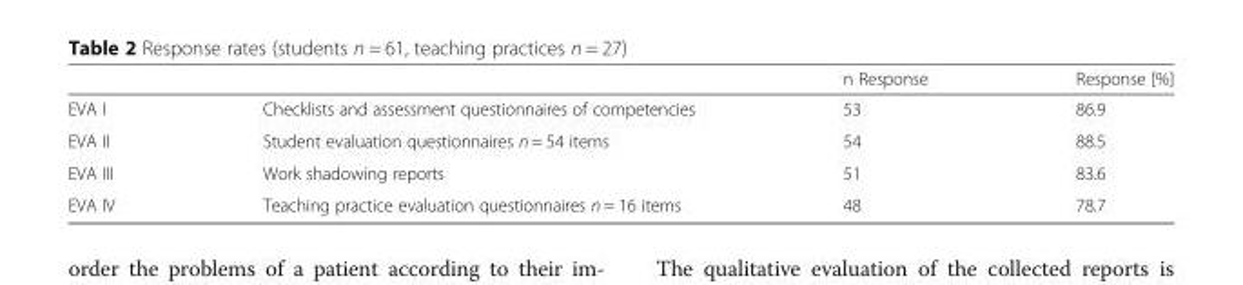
<table><thead><tr><td></td><td></td><td>n Response</td><td>Response [%]</td></tr></thead><tbody><tr><td>EVA I</td><td>Checklists and assessment questionnaires of competencies</td><td>53</td><td>86.9</td></tr><tr><td>EVA II</td><td>Student evaluation questionnaires n = 54 items</td><td>54</td><td>88.5</td></tr><tr><td>EVA III</td><td>Work shadowing reports</td><td>51</td><td>83.6</td></tr><tr><td>EVA IV</td><td>Teaching practice evaluation questionnaires n = 16 items</td><td>48</td><td>78.7</td></tr></tbody></table>